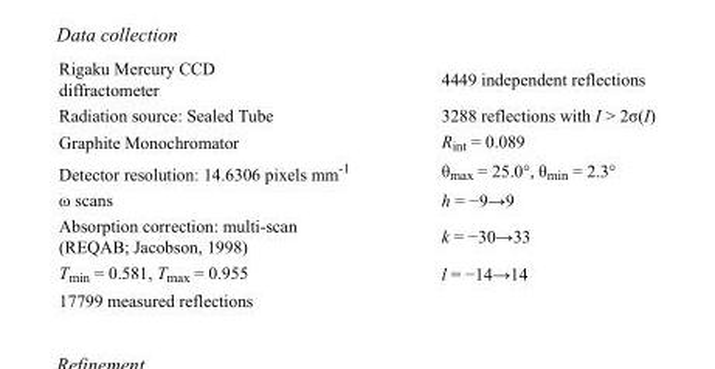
<table><tbody><tr><td>Rigaku Mercury CCD diffractometer</td><td>4449 independent reflections</td></tr><tr><td>Radiation source: Sealed Tube</td><td>3288 reflections with I &gt; 2σ(I)</td></tr><tr><td>Graphite Monochromator</td><td>R<sub>int</sub> = 0.089</td></tr><tr><td>Detector resolution: 14.6306 pixels mm<sup>-1</sup></td><td>θ<sub>max</sub> = 25.0°, θ<sub>min</sub> = 2.3°</td></tr><tr><td>ω scans</td><td>h = −9→9</td></tr><tr><td>Absorption correction: multi-scan (REQAB; Jacobson, 1998)</td><td>k = −30→33</td></tr><tr><td>T<sub>min</sub> = 0.581, T<sub>max</sub> = 0.955</td><td>l = −14→14</td></tr><tr><td>17799 measured reflections</td><td></td></tr></tbody></table>